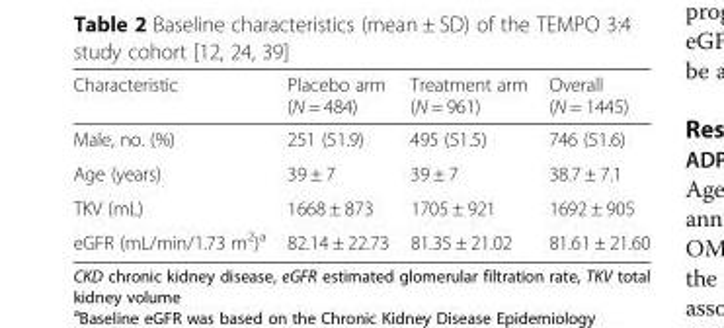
<table><thead><tr><td>Characteristic</td><td>Placebo arm (N = 484)</td><td>Treatment arm (N = 961)</td><td>Overall (N = 1445)</td></tr></thead><tbody><tr><td>Male, no. (%)</td><td>251 (51.9)</td><td>495 (51.5)</td><td>746 (51.6)</td></tr><tr><td>Age (years)</td><td>39 ± 7</td><td>39 ± 7</td><td>38.7 ± 7.1</td></tr><tr><td>TKV (mL)</td><td>1668 ± 873</td><td>1705 ± 921</td><td>1692 ± 905</td></tr><tr><td>eGFR (mL/min/1.73 m<sup>2</sup>)<sup>a</sup></td><td>82.14 ± 22.73</td><td>81.35 ± 21.02</td><td>81.61 ± 21.60</td></tr></tbody></table>